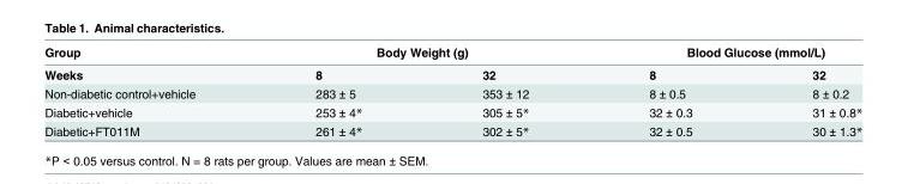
<table><thead><tr><td rowspan="2">Group Weeks</td><td colspan="2">Body Weight (g)</td><td colspan="2">Blood Glucose (mmol/L)</td></tr><tr><td>8</td><td>32</td><td>8</td><td>32</td></tr></thead><tbody><tr><td>Non-diabetic control+vehicle</td><td>283 ± 5</td><td>353 ± 12</td><td>8 ± 0.5</td><td>8 ± 0.2</td></tr><tr><td>Diabetic+vehicle</td><td>253 ± 4*</td><td>305 ± 5*</td><td>32 ± 0.3</td><td>31 ± 0.8*</td></tr><tr><td>Diabetic+FT011M</td><td>261 ± 4*</td><td>302 ± 5*</td><td>32 ± 0.5</td><td>30 ± 1.3*</td></tr></tbody></table>